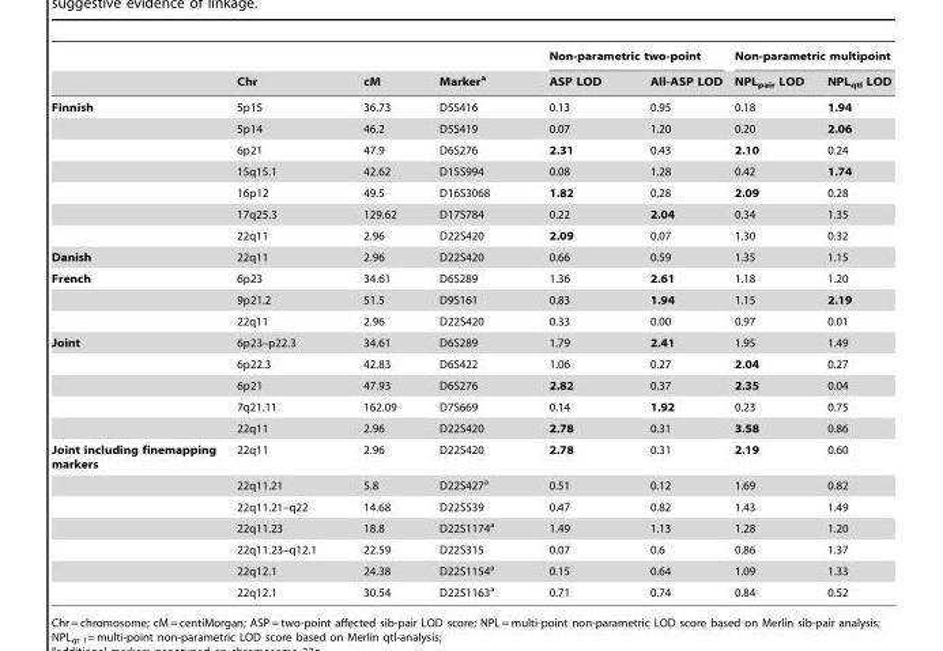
<table><thead><tr><td rowspan="2"></td><td rowspan="2">Chr</td><td rowspan="2">cM</td><td rowspan="2">Marker<sup>a</sup></td><td colspan="2">Non-parametric two-point</td><td colspan="2">Non-parametric multipoint</td></tr><tr><td>ASP LOD</td><td>All-ASP LOD</td><td>NPL<sub>pair</sub> LOD</td><td>NPL<sub>qtl</sub> LOD</td></tr></thead><tbody><tr><td rowspan="7">Finnish</td><td>5p15</td><td>36.73</td><td>D5S416</td><td>0.13</td><td>0.95</td><td>0.18</td><td>1.94</td></tr><tr><td>5p14</td><td>46.2</td><td>D5S419</td><td>0.07</td><td>1.20</td><td>0.20</td><td>2.06</td></tr><tr><td>6p21</td><td>47.9</td><td>D6S276</td><td>2.31</td><td>0.43</td><td>2.10</td><td>0.24</td></tr><tr><td>15q15.1</td><td>42.62</td><td>D15S994</td><td>0.08</td><td>1.28</td><td>0.42</td><td>1.74</td></tr><tr><td>16p12</td><td>49.5</td><td>D16S3068</td><td>1.82</td><td>0.28</td><td>2.09</td><td>0.28</td></tr><tr><td>17q25.3</td><td>129.62</td><td>D17S784</td><td>0.22</td><td>2.04</td><td>0.34</td><td>1.35</td></tr><tr><td>22q11</td><td>2.96</td><td>D22S420</td><td>2.09</td><td>0.07</td><td>1.30</td><td>0.32</td></tr><tr><td>Danish</td><td>22q11</td><td>2.96</td><td>D22S420</td><td>0.66</td><td>0.59</td><td>1.35</td><td>1.15</td></tr><tr><td rowspan="3">French</td><td>6p23</td><td>34.61</td><td>D6S289</td><td>1.36</td><td>2.61</td><td>1.18</td><td>1.20</td></tr><tr><td>9p21.2</td><td>51.5</td><td>D9S161</td><td>0.83</td><td>1.94</td><td>1.15</td><td>2.19</td></tr><tr><td>22q11</td><td>2.96</td><td>D22S420</td><td>0.33</td><td>0.00</td><td>0.97</td><td>0.01</td></tr><tr><td rowspan="5">Joint</td><td>6p23–p22.3</td><td>34.61</td><td>D6S289</td><td>1.79</td><td>2.41</td><td>1.95</td><td>1.49</td></tr><tr><td>6p22.3</td><td>42.83</td><td>D6S422</td><td>1.06</td><td>0.27</td><td>2.04</td><td>0.27</td></tr><tr><td>6p21</td><td>47.93</td><td>D6S276</td><td>2.82</td><td>0.37</td><td>2.35</td><td>0.04</td></tr><tr><td>7q21.11</td><td>162.09</td><td>D7S669</td><td>0.14</td><td>1.92</td><td>0.23</td><td>0.75</td></tr><tr><td>22q11</td><td>2.96</td><td>D22S420</td><td>2.78</td><td>0.31</td><td>3.58</td><td>0.86</td></tr><tr><td rowspan="7">Joint including finemapping markers</td><td>22q11</td><td>2.96</td><td>D22S420</td><td>2.78</td><td>0.31</td><td>2.19</td><td>0.60</td></tr><tr><td>22q11.21</td><td>5.8</td><td>D22S427<sup>a</sup></td><td>0.51</td><td>0.12</td><td>1.69</td><td>0.82</td></tr><tr><td>22q11.21–q22</td><td>14.68</td><td>D22S539</td><td>0.47</td><td>0.82</td><td>1.43</td><td>1.49</td></tr><tr><td>22q11.23</td><td>18.8</td><td>D22S1174<sup>a</sup></td><td>1.49</td><td>1.13</td><td>1.28</td><td>1.20</td></tr><tr><td>22q11.23–q12.1</td><td>22.59</td><td>D22S315</td><td>0.07</td><td>0.6</td><td>0.86</td><td>1.37</td></tr><tr><td>22q12.1</td><td>24.38</td><td>D22S1154<sup>a</sup></td><td>0.15</td><td>0.64</td><td>1.09</td><td>1.33</td></tr><tr><td>22q12.1</td><td>30.54</td><td>D22S1163<sup>a</sup></td><td>0.71</td><td>0.74</td><td>0.84</td><td>0.52</td></tr></tbody></table>